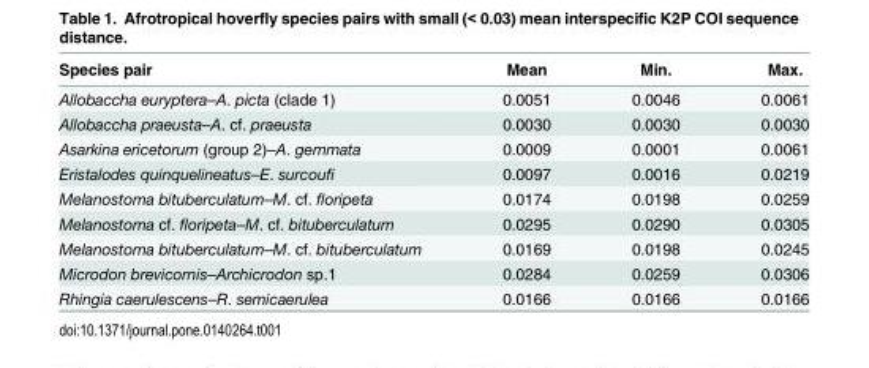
<table><thead><tr><td>Species pair</td><td>Mean</td><td>Min.</td><td>Max.</td></tr></thead><tbody><tr><td>Allobaccha euryptera–A. picta (clade 1)</td><td>0.0051</td><td>0.0046</td><td>0.0061</td></tr><tr><td>Allobaccha praeusta–A. cf. praeusta</td><td>0.0030</td><td>0.0030</td><td>0.0030</td></tr><tr><td>Asarkina ericetorum (group 2)–A. gemmata</td><td>0.0009</td><td>0.0001</td><td>0.0061</td></tr><tr><td>Eristalodes quinquelineatus–E. surcoufi</td><td>0.0097</td><td>0.0016</td><td>0.0219</td></tr><tr><td>Melanostoma bituberculatum–M. cf. floripeta</td><td>0.0174</td><td>0.0198</td><td>0.0259</td></tr><tr><td>Melanostoma cf. floripeta–M. cf. bituberculatum</td><td>0.0295</td><td>0.0290</td><td>0.0305</td></tr><tr><td>Melanostoma bituberculatum–M. cf. bituberculatum</td><td>0.0169</td><td>0.0198</td><td>0.0245</td></tr><tr><td>Microdon brevicornis–Archicrodon sp.1</td><td>0.0284</td><td>0.0259</td><td>0.0306</td></tr><tr><td>Rhingia caerulescens–R. semicaerulea</td><td>0.0166</td><td>0.0166</td><td>0.0166</td></tr></tbody></table>